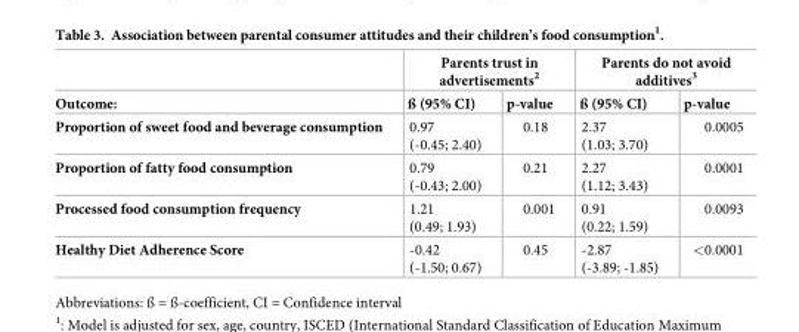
<table><thead><tr><td rowspan="2">Outcome:</td><td colspan="2">Parents trust in advertisements<sup>2</sup></td><td colspan="2">Parents do not avoid additives<sup>3</sup></td></tr><tr><td>ß (95% CI)</td><td>p-value</td><td>ß (95% CI)</td><td>p-value</td></tr></thead><tbody><tr><td>Proportion of sweet food and beverage consumption</td><td>0.97 (-0.45; 2.40)</td><td>0.18</td><td>2.37 (1.03; 3.70)</td><td>0.0005</td></tr><tr><td>Proportion of fatty food consumption</td><td>0.79 (-0.43; 2.00)</td><td>0.21</td><td>2.27 (1.12; 3.43)</td><td>0.0001</td></tr><tr><td>Processed food consumption frequency</td><td>1.21 (0.49; 1.93)</td><td>0.001</td><td>0.91 (0.22; 1.59)</td><td>0.0093</td></tr><tr><td>Healthy Diet Adherence Score</td><td>-0.42 (-1.50; 0.67)</td><td>0.45</td><td>-2.87 (-3.89; -1.85)</td><td>&lt;0.0001</td></tr></tbody></table>